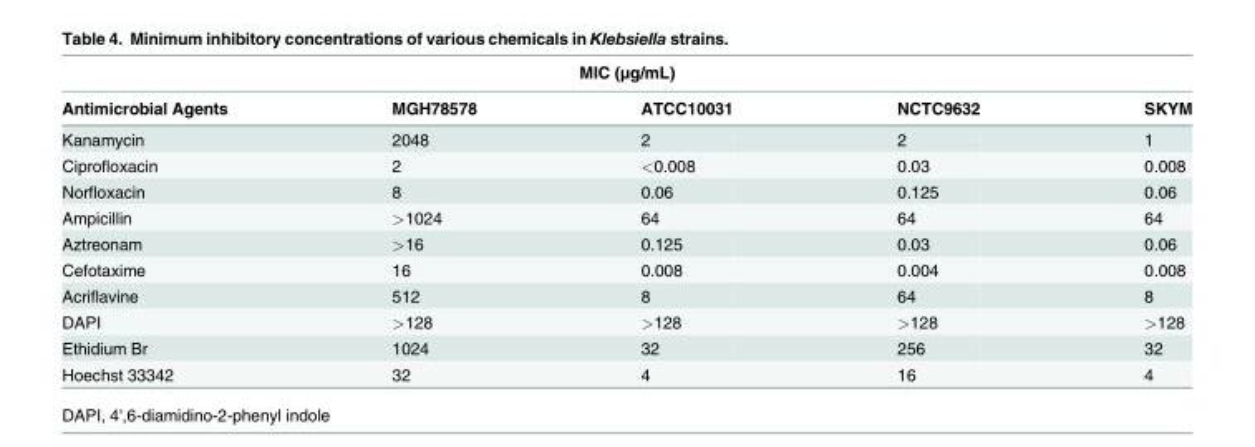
<table><thead><tr><td colspan="5">MIC (μg/mL)</td></tr><tr><td>Antimicrobial Agents</td><td>MGH78578</td><td>ATCC10031</td><td>NCTC9632</td><td>SKYM</td></tr></thead><tbody><tr><td>Kanamycin</td><td>2048</td><td>2</td><td>2</td><td>1</td></tr><tr><td>Ciprofloxacin</td><td>2</td><td>&lt;0.008</td><td>0.03</td><td>0.008</td></tr><tr><td>Norfloxacin</td><td>8</td><td>0.06</td><td>0.125</td><td>0.06</td></tr><tr><td>Ampicillin</td><td>&gt;1024</td><td>64</td><td>64</td><td>64</td></tr><tr><td>Aztreonam</td><td>&gt;16</td><td>0.125</td><td>0.03</td><td>0.06</td></tr><tr><td>Cefotaxime</td><td>16</td><td>0.008</td><td>0.004</td><td>0.008</td></tr><tr><td>Acriflavine</td><td>512</td><td>8</td><td>64</td><td>8</td></tr><tr><td>DAPI</td><td>&gt;128</td><td>&gt;128</td><td>&gt;128</td><td>&gt;128</td></tr><tr><td>Ethidium Br</td><td>1024</td><td>32</td><td>256</td><td>32</td></tr><tr><td>Hoechst 33342</td><td>32</td><td>4</td><td>16</td><td>4</td></tr></tbody></table>